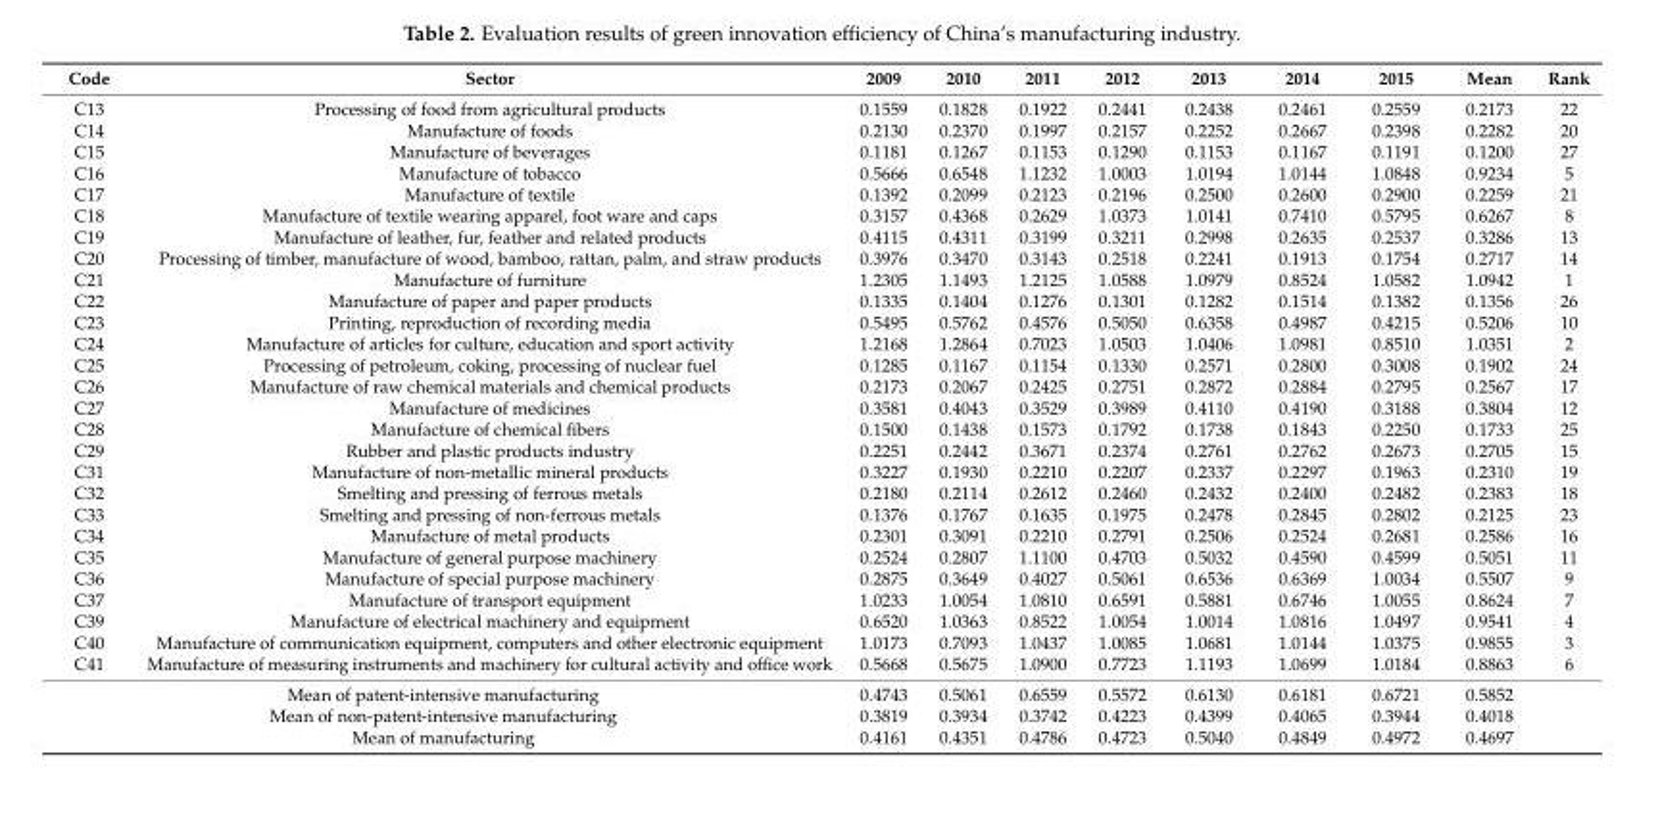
<table><thead><tr><td>Code</td><td>Sector</td><td>2009</td><td>2010</td><td>2011</td><td>2012</td><td>2013</td><td>2014</td><td>2015</td><td>Mean</td><td>Rank</td></tr></thead><tbody><tr><td>C13</td><td>Processing of food from agricultural products</td><td>0.1559</td><td>0.1828</td><td>0.1922</td><td>0.2441</td><td>0.2438</td><td>0.2461</td><td>0.2559</td><td>0.2173</td><td>22</td></tr><tr><td>C14</td><td>Manufacture of foods</td><td>0.2130</td><td>0.2370</td><td>0.1997</td><td>0.2157</td><td>0.2252</td><td>0.2667</td><td>0.2398</td><td>0.2282</td><td>20</td></tr><tr><td>C15</td><td>Manufacture of beverages</td><td>0.1181</td><td>0.1267</td><td>0.1153</td><td>0.1290</td><td>0.1153</td><td>0.1167</td><td>0.1191</td><td>0.1200</td><td>27</td></tr><tr><td>C16</td><td>Manufacture of tobacco</td><td>0.5666</td><td>0.6548</td><td>1.1232</td><td>1.0003</td><td>1.0194</td><td>1.0144</td><td>1.0848</td><td>0.9234</td><td>5</td></tr><tr><td>C17</td><td>Manufacture of textile</td><td>0.1392</td><td>0.2099</td><td>0.2123</td><td>0.2196</td><td>0.2500</td><td>0.2600</td><td>0.2900</td><td>0.2259</td><td>21</td></tr><tr><td>C18</td><td>Manufacture of textile wearing apparel, foot ware and caps</td><td>0.3157</td><td>0.4368</td><td>0.2629</td><td>1.0373</td><td>1.0141</td><td>0.7410</td><td>0.5795</td><td>0.6267</td><td>8</td></tr><tr><td>C19</td><td>Manufacture of leather, fur, feather and related products</td><td>0.4115</td><td>0.4311</td><td>0.3199</td><td>0.3211</td><td>0.2998</td><td>0.2635</td><td>0.2537</td><td>0.3286</td><td>13</td></tr><tr><td>C20</td><td>Processing of timber, manufacture of wood, bamboo, rattan, palm, and straw products</td><td>0.3976</td><td>0.3470</td><td>0.3143</td><td>0.2518</td><td>0.2241</td><td>0.1913</td><td>0.1754</td><td>0.2717</td><td>14</td></tr><tr><td>C21</td><td>Manufacture of furniture</td><td>1.2305</td><td>1.1493</td><td>1.2125</td><td>1.0588</td><td>1.0979</td><td>0.8524</td><td>1.0582</td><td>1.0942</td><td>1</td></tr><tr><td>C22</td><td>Manufacture of paper and paper products</td><td>0.1335</td><td>0.1404</td><td>0.1276</td><td>0.1301</td><td>0.1282</td><td>0.1514</td><td>0.1382</td><td>0.1356</td><td>26</td></tr><tr><td>C23</td><td>Printing, reproduction of recording media</td><td>0.5495</td><td>0.5762</td><td>0.4576</td><td>0.5050</td><td>0.6358</td><td>0.4987</td><td>0.4215</td><td>0.5206</td><td>10</td></tr><tr><td>C24</td><td>Manufacture of articles for culture, education and sport activity</td><td>1.2168</td><td>1.2864</td><td>0.7023</td><td>1.0503</td><td>1.0406</td><td>1.0981</td><td>0.8510</td><td>1.0351</td><td>2</td></tr><tr><td>C25</td><td>Processing of petroleum, coking, processing of nuclear fuel</td><td>0.1285</td><td>0.1167</td><td>0.1154</td><td>0.1330</td><td>0.2571</td><td>0.2800</td><td>0.3008</td><td>0.1902</td><td>24</td></tr><tr><td>C26</td><td>Manufacture of raw chemical materials and chemical products</td><td>0.2173</td><td>0.2067</td><td>0.2425</td><td>0.2751</td><td>0.2872</td><td>0.2884</td><td>0.2795</td><td>0.2567</td><td>17</td></tr><tr><td>C27</td><td>Manufacture of medicines</td><td>0.3581</td><td>0.4043</td><td>0.3529</td><td>0.3989</td><td>0.4110</td><td>0.4190</td><td>0.3188</td><td>0.3804</td><td>12</td></tr><tr><td>C28</td><td>Manufacture of chemical fibers</td><td>0.1500</td><td>0.1438</td><td>0.1573</td><td>0.1792</td><td>0.1738</td><td>0.1843</td><td>0.2250</td><td>0.1733</td><td>25</td></tr><tr><td>C29</td><td>Rubber and plastic products industry</td><td>0.2251</td><td>0.2442</td><td>0.3671</td><td>0.2374</td><td>0.2761</td><td>0.2762</td><td>0.2673</td><td>0.2705</td><td>15</td></tr><tr><td>C31</td><td>Manufacture of non-metallic mineral products</td><td>0.3227</td><td>0.1930</td><td>0.2210</td><td>0.2207</td><td>0.2337</td><td>0.2297</td><td>0.1963</td><td>0.2310</td><td>19</td></tr><tr><td>C32</td><td>Smelting and pressing of ferrous metals</td><td>0.2180</td><td>0.2114</td><td>0.2612</td><td>0.2460</td><td>0.2432</td><td>0.2400</td><td>0.2482</td><td>0.2383</td><td>18</td></tr><tr><td>C33</td><td>Smelting and pressing of non-ferrous metals</td><td>0.1376</td><td>0.1767</td><td>0.1635</td><td>0.1975</td><td>0.2478</td><td>0.2845</td><td>0.2802</td><td>0.2125</td><td>23</td></tr><tr><td>C34</td><td>Manufacture of metal products</td><td>0.2301</td><td>0.3091</td><td>0.2210</td><td>0.2791</td><td>0.2506</td><td>0.2524</td><td>0.2681</td><td>0.2586</td><td>16</td></tr><tr><td>C35</td><td>Manufacture of general purpose machinery</td><td>0.2524</td><td>0.2807</td><td>1.1100</td><td>0.4703</td><td>0.5032</td><td>0.4590</td><td>0.4599</td><td>0.5051</td><td>11</td></tr><tr><td>C36</td><td>Manufacture of special purpose machinery</td><td>0.2875</td><td>0.3649</td><td>0.4027</td><td>0.5061</td><td>0.6536</td><td>0.6369</td><td>1.0034</td><td>0.5507</td><td>9</td></tr><tr><td>C37</td><td>Manufacture of transport equipment</td><td>1.0233</td><td>1.0054</td><td>1.0810</td><td>0.6591</td><td>0.5881</td><td>0.6746</td><td>1.0055</td><td>0.8624</td><td>7</td></tr><tr><td>C39</td><td>Manufacture of electrical machinery and equipment</td><td>0.6520</td><td>1.0363</td><td>0.8522</td><td>1.0054</td><td>1.0014</td><td>1.0816</td><td>1.0497</td><td>0.9541</td><td>4</td></tr><tr><td>C40</td><td>Manufacture of communication equipment, computers and other electronic equipment</td><td>1.0173</td><td>0.7093</td><td>1.0437</td><td>1.0085</td><td>1.0681</td><td>1.0144</td><td>1.0375</td><td>0.9855</td><td>3</td></tr><tr><td>C41</td><td>Manufacture of measuring instruments and machinery for cultural activity and office work</td><td>0.5668</td><td>0.5675</td><td>1.0900</td><td>0.7723</td><td>1.1193</td><td>1.0699</td><td>1.0184</td><td>0.8863</td><td>6</td></tr><tr><td colspan="2">Mean of patent-intensive manufacturing</td><td>0.4743</td><td>0.5061</td><td>0.6559</td><td>0.5572</td><td>0.6130</td><td>0.6181</td><td>0.6721</td><td>0.5852</td><td></td></tr><tr><td colspan="2">Mean of non-patent-intensive manufacturing</td><td>0.3819</td><td>0.3934</td><td>0.3742</td><td>0.4223</td><td>0.4399</td><td>0.4065</td><td>0.3944</td><td>0.4018</td><td></td></tr><tr><td colspan="2">Mean of manufacturing</td><td>0.4161</td><td>0.4351</td><td>0.4786</td><td>0.4723</td><td>0.5040</td><td>0.4849</td><td>0.4972</td><td>0.4697</td><td></td></tr></tbody></table>